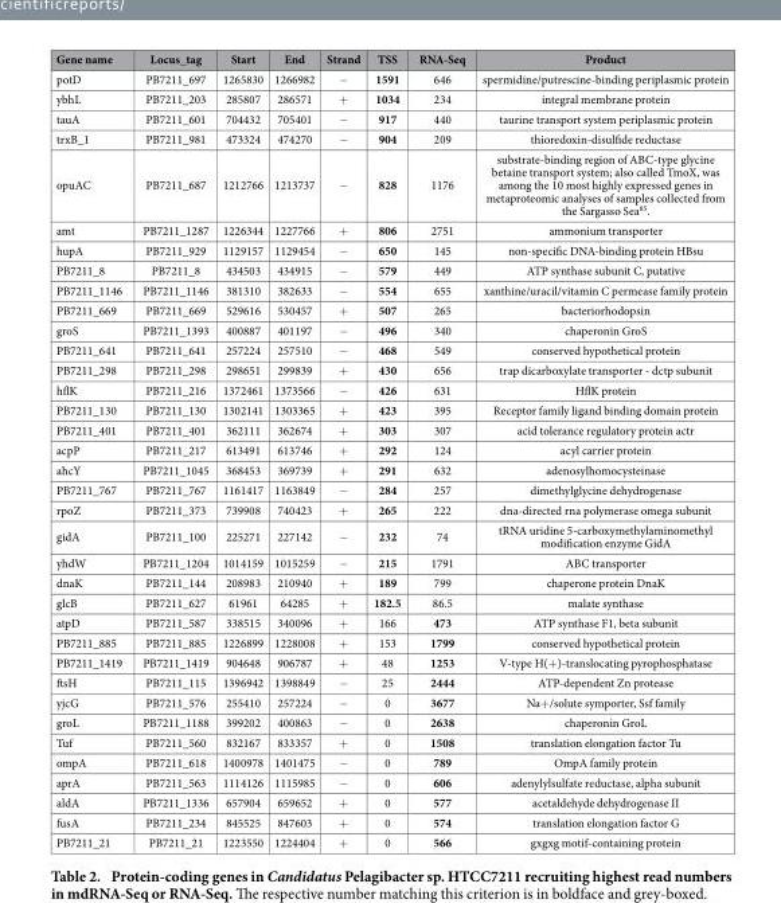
<table><thead><tr><td>Gene name</td><td>Locus_tag</td><td>Start</td><td>End</td><td>Strand</td><td>TSS</td><td>RNA-Seq</td><td>Product</td></tr></thead><tbody><tr><td>potD</td><td>PB7211_697</td><td>1265830</td><td>1266982</td><td>−</td><td>1591</td><td>646</td><td>spermidine/putrescine-binding periplasmic protein</td></tr><tr><td>ybhL</td><td>PB7211_203</td><td>285807</td><td>286571</td><td>+</td><td>1034</td><td>234</td><td>integral membrane protein</td></tr><tr><td>tauA</td><td>PB7211_601</td><td>704432</td><td>705401</td><td>−</td><td>917</td><td>440</td><td>taurine transport system periplasmic protein</td></tr><tr><td>trxB_1</td><td>PB7211_981</td><td>473324</td><td>474270</td><td>−</td><td>904</td><td>209</td><td>thioredoxin-disulfide reductase</td></tr><tr><td>opuAC</td><td>PB7211_687</td><td>1212766</td><td>1213737</td><td>−</td><td>828</td><td>1176</td><td>substrate-binding region of ABC-type glycine betaine transport system; also called TmoX, was among the 10 most highly expressed genes in metaproteomic analyses of samples collected from the Sargasso Sea<sup>85</sup>.</td></tr><tr><td>amt</td><td>PB7211_1287</td><td>1226344</td><td>1227766</td><td>+</td><td>806</td><td>2751</td><td>ammonium transporter</td></tr><tr><td>hupA</td><td>PB7211_929</td><td>1129157</td><td>1129454</td><td>−</td><td>650</td><td>145</td><td>non-specific DNA-binding protein HBsu</td></tr><tr><td>PB7211_8</td><td>PB7211_8</td><td>434503</td><td>434915</td><td>−</td><td>579</td><td>449</td><td>ATP synthase subunit C, putative</td></tr><tr><td>PB7211_1146</td><td>PB7211_1146</td><td>381310</td><td>382633</td><td>−</td><td>554</td><td>655</td><td>xanthine/uracil/vitamin C permease family protein</td></tr><tr><td>PB7211_669</td><td>PB7211_669</td><td>529616</td><td>530457</td><td>+</td><td>507</td><td>265</td><td>bacteriorhodopsin</td></tr><tr><td>groS</td><td>PB7211_1393</td><td>400887</td><td>401197</td><td>−</td><td>496</td><td>340</td><td>chaperonin GroS</td></tr><tr><td>PB7211_641</td><td>PB7211_641</td><td>257224</td><td>257510</td><td>−</td><td>468</td><td>549</td><td>conserved hypothetical protein</td></tr><tr><td>PB7211_298</td><td>PB7211_298</td><td>298651</td><td>299839</td><td>+</td><td>430</td><td>656</td><td>trap dicarboxylate transporter - dctp subunit</td></tr><tr><td>hflK</td><td>PB7211_216</td><td>1372461</td><td>1373566</td><td>−</td><td>426</td><td>631</td><td>HflK protein</td></tr><tr><td>PB7211_130</td><td>PB7211_130</td><td>1302141</td><td>1303365</td><td>+</td><td>423</td><td>395</td><td>Receptor family ligand binding domain protein</td></tr><tr><td>PB7211_401</td><td>PB7211_401</td><td>362111</td><td>362674</td><td>+</td><td>303</td><td>307</td><td>acid tolerance regulatory protein actr</td></tr><tr><td>acpP</td><td>PB7211_217</td><td>613491</td><td>613746</td><td>+</td><td>292</td><td>124</td><td>acyl carrier protein</td></tr><tr><td>ahcY</td><td>PB7211_1045</td><td>368453</td><td>369739</td><td>+</td><td>291</td><td>632</td><td>adenosylhomocysteinase</td></tr><tr><td>PB7211_767</td><td>PB7211_767</td><td>1161417</td><td>1163849</td><td>−</td><td>284</td><td>257</td><td>dimethylglycine dehydrogenase</td></tr><tr><td>rpoZ</td><td>PB7211_373</td><td>739908</td><td>740423</td><td>+</td><td>265</td><td>222</td><td>dna-directed rna polymerase omega subunit</td></tr><tr><td>gidA</td><td>PB7211_100</td><td>225271</td><td>227142</td><td>−</td><td>232</td><td>74</td><td>tRNA uridine 5-carboxymethylaminomethyl modification enzyme GidA</td></tr><tr><td>yhdW</td><td>PB7211_1204</td><td>1014159</td><td>1015259</td><td>−</td><td>215</td><td>1791</td><td>ABC transporter</td></tr><tr><td>dnaK</td><td>PB7211_144</td><td>208983</td><td>210940</td><td>+</td><td>189</td><td>799</td><td>chaperone protein DnaK</td></tr><tr><td>glcB</td><td>PB7211_627</td><td>61961</td><td>64285</td><td>+</td><td>182.5</td><td>86.5</td><td>malate synthase</td></tr><tr><td>atpD</td><td>PB7211_587</td><td>338515</td><td>340096</td><td>+</td><td>166</td><td>473</td><td>ATP synthase F1, beta subunit</td></tr><tr><td>PB7211_885</td><td>PB7211_885</td><td>1226899</td><td>1228008</td><td>+</td><td>153</td><td>1799</td><td>conserved hypothetical protein</td></tr><tr><td>PB7211_1419</td><td>PB7211_1419</td><td>904648</td><td>906787</td><td>+</td><td>48</td><td>1253</td><td>V-type H(+ )-translocating pyrophosphatase</td></tr><tr><td>ftsH</td><td>PB7211_115</td><td>1396942</td><td>1398849</td><td>−</td><td>25</td><td>2444</td><td>ATP-dependent Zn protease</td></tr><tr><td>yjcG</td><td>PB7211_576</td><td>255410</td><td>257224</td><td>−</td><td>0</td><td>3677</td><td>Na+ /solute symporter, Ssf family</td></tr><tr><td>groL</td><td>PB7211_1188</td><td>399202</td><td>400863</td><td>−</td><td>0</td><td>2638</td><td>chaperonin GroL</td></tr><tr><td>Tuf</td><td>PB7211_560</td><td>832167</td><td>833357</td><td>+</td><td>0</td><td>1508</td><td>translation elongation factor Tu</td></tr><tr><td>ompA</td><td>PB7211_618</td><td>1400978</td><td>1401475</td><td>−</td><td>0</td><td>789</td><td>OmpA family protein</td></tr><tr><td>aprA</td><td>PB7211_563</td><td>1114126</td><td>1115985</td><td>−</td><td>0</td><td>606</td><td>adenylylsulfate reductase, alpha subunit</td></tr><tr><td>aldA</td><td>PB7211_1336</td><td>657904</td><td>659652</td><td>+</td><td>0</td><td>577</td><td>acetaldehyde dehydrogenase II</td></tr><tr><td>fusA</td><td>PB7211_234</td><td>845525</td><td>847603</td><td>+</td><td>0</td><td>574</td><td>translation elongation factor G</td></tr><tr><td>PB7211_21</td><td>PB7211_21</td><td>1223550</td><td>1224404</td><td>+</td><td>0</td><td>566</td><td>gxgxg motif-containing protein</td></tr></tbody></table>